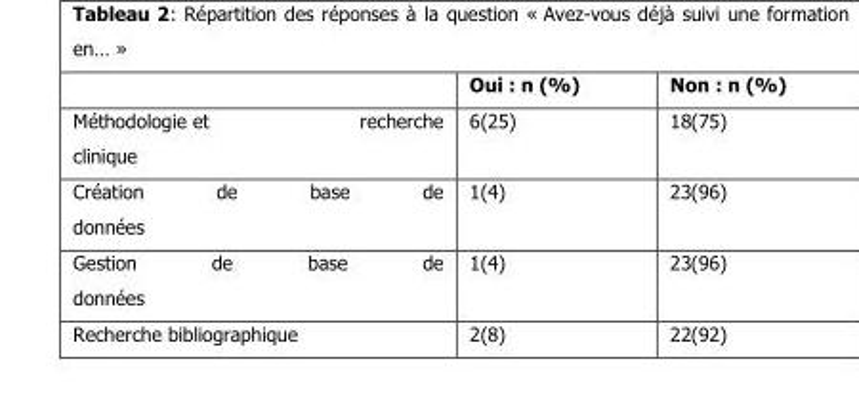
<table><thead><tr><td></td><td>Oui : n (%)</td><td>Non : n (%)</td></tr></thead><tbody><tr><td>Méthodologie et recherche clinique</td><td>6(25)</td><td>18(75)</td></tr><tr><td>Création de base de données</td><td>1(4)</td><td>23(96)</td></tr><tr><td>Gestion de base de données</td><td>1(4)</td><td>23(96)</td></tr><tr><td>Recherche bibliographique</td><td>2(8)</td><td>22(92)</td></tr></tbody></table>